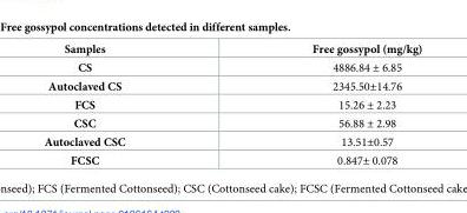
<table><thead><tr><td>Samples</td><td>Free gossypol (mg/kg)</td></tr></thead><tbody><tr><td>CS</td><td>4886.84 ± 6.85</td></tr><tr><td>Autoclaved CS</td><td>2345.50±14.76</td></tr><tr><td>FCS</td><td>15.26 ± 2.23</td></tr><tr><td>CSC</td><td>56.88 ± 2.98</td></tr><tr><td>Autoclaved CSC</td><td>13.51±0.57</td></tr><tr><td>FCSC</td><td>0.847± 0.078</td></tr></tbody></table>